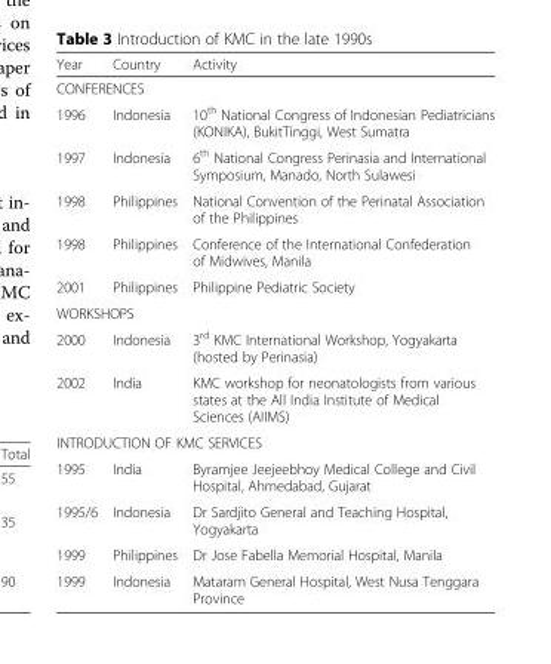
<table><thead><tr><td>Year</td><td>Country</td><td>Activity</td></tr></thead><tbody><tr><td colspan="3">CONFERENCES</td></tr><tr><td>1996</td><td>Indonesia</td><td>10<sup>th</sup> National Congress of Indonesian Pediatricians (KONIKA), BukitTinggi, West Sumatra</td></tr><tr><td>1997</td><td>Indonesia</td><td>6<sup>th</sup> National Congress Perinasia and International Symposium, Manado, North Sulawesi</td></tr><tr><td>1998</td><td>Philippines</td><td>National Convention of the Perinatal Association of the Philippines</td></tr><tr><td>1998</td><td>Philippines</td><td>Conference of the International Confederation of Midwives, Manila</td></tr><tr><td>2001</td><td>Philippines</td><td>Philippine Pediatric Society</td></tr><tr><td colspan="3">WORKSHOPS</td></tr><tr><td>2000</td><td>Indonesia</td><td>3<sup>rd</sup> KMC International Workshop, Yogyakarta (hosted by Perinasia)</td></tr><tr><td>2002</td><td>India</td><td>KMC workshop for neonatologists from various states at the All India Institute of Medical Sciences (AIIMS)</td></tr><tr><td colspan="3">INTRODUCTION OF KMC SERVICES</td></tr><tr><td>1995</td><td>India</td><td>Byramjee Jeejeebhoy Medical College and Civil Hospital, Ahmedabad, Gujarat</td></tr><tr><td>1995/6</td><td>Indonesia</td><td>Dr Sardjito General and Teaching Hospital, Yogyakarta</td></tr><tr><td>1999</td><td>Philippines</td><td>Dr Jose Fabella Memorial Hospital, Manila</td></tr><tr><td>1999</td><td>Indonesia</td><td>Mataram General Hospital, West Nusa Tenggara Province</td></tr></tbody></table>